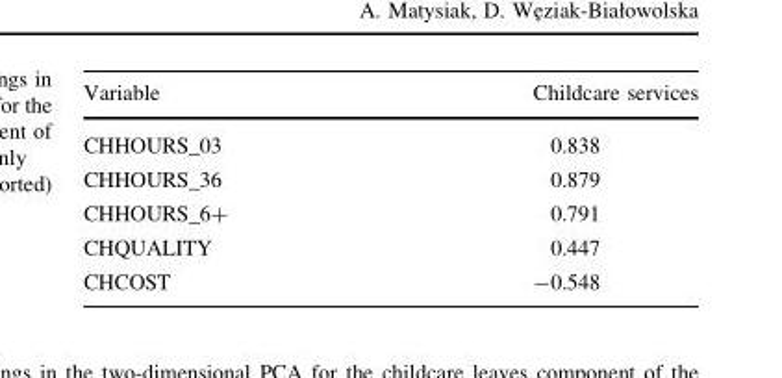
<table><thead><tr><td>Variable</td><td>Childcare services</td></tr></thead><tbody><tr><td>CHHOURS_03</td><td>0.838</td></tr><tr><td>CHHOURS_36</td><td>0.879</td></tr><tr><td>CHHOURS_6+</td><td>0.791</td></tr><tr><td>CHQUALITY</td><td>0.447</td></tr><tr><td>CHCOST</td><td>-0.548</td></tr></tbody></table>